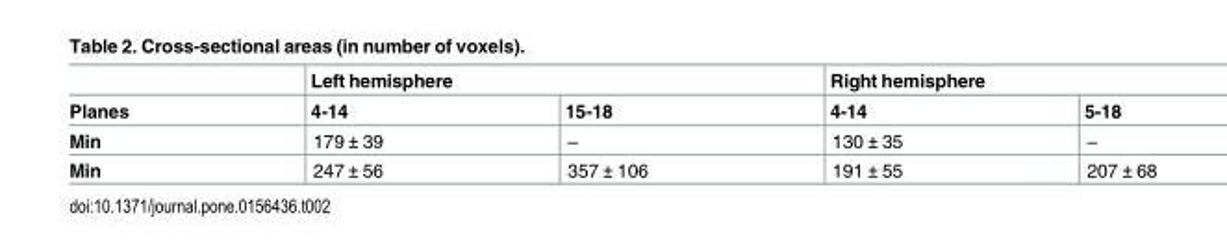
<table><thead><tr><td rowspan="2">Planes</td><td colspan="2">Left hemisphere</td><td colspan="2">Right hemisphere</td></tr><tr><td>4-14</td><td>15-18</td><td>4-14</td><td>5-18</td></tr></thead><tbody><tr><td>Min</td><td>179 ± 39</td><td>–</td><td>130 ± 35</td><td>–</td></tr><tr><td>Min</td><td>247 ± 56</td><td>357 ± 106</td><td>191 ± 55</td><td>207 ± 68</td></tr></tbody></table>